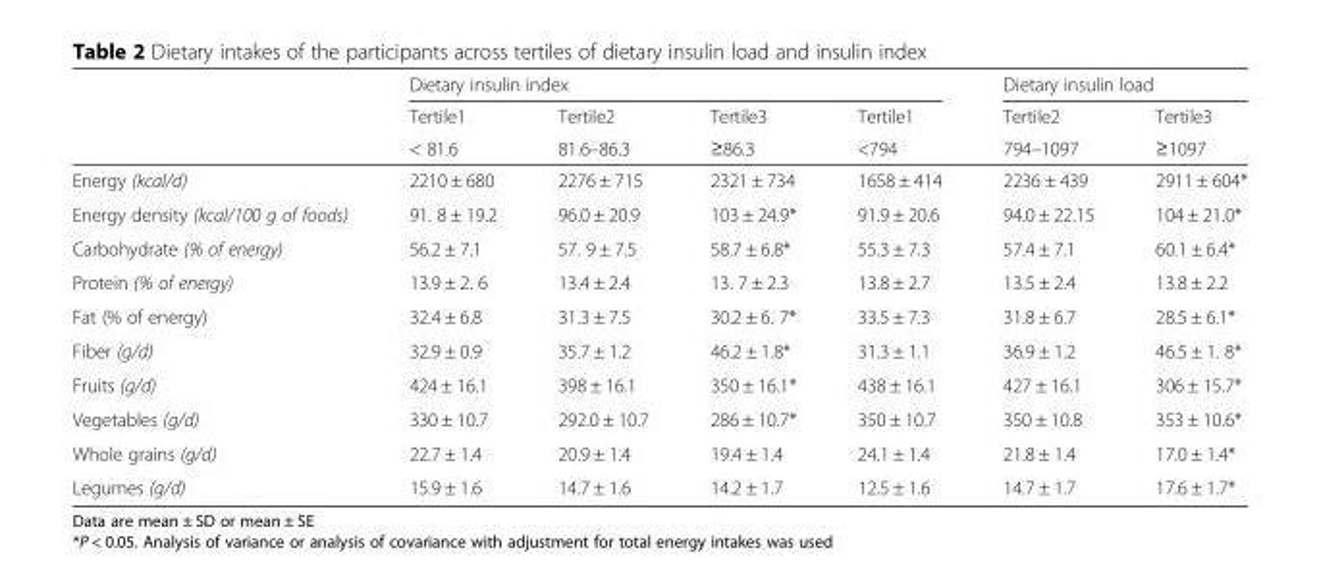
<table><thead><tr><td rowspan="3"></td><td colspan="4">Dietary insulin index</td><td colspan="2">Dietary insulin load</td></tr><tr><td rowspan="2">Tertile1 &lt; 81.6</td><td rowspan="2">Tertile2 81.6–86.3</td><td rowspan="2">Tertile3 ≥86.3</td><td rowspan="2">Tertile1 &lt;794</td><td rowspan="2">Tertile2 794–1097</td><td rowspan="2">Tertile3 ≥1097</td></tr><tr></tr></thead><tbody><tr><td>Energy (kcal/d)</td><td>2210 ± 680</td><td>2276 ± 715</td><td>2321 ± 734</td><td>1658 ± 414</td><td>2236 ± 439</td><td>2911 ± 604*</td></tr><tr><td>Energy density (kcal/100 g of foods)</td><td>91. 8 ± 19.2</td><td>96.0 ± 20.9</td><td>103 ± 24.9*</td><td>91.9 ± 20.6</td><td>94.0 ± 22.15</td><td>104 ± 21.0*</td></tr><tr><td>Carbohydrate (% of energy)</td><td>56.2 ± 7.1</td><td>57. 9 ± 7.5</td><td>58.7 ± 6.8*</td><td>55.3 ± 7.3</td><td>57.4 ± 7.1</td><td>60.1 ± 6.4*</td></tr><tr><td>Protein (% of energy)</td><td>13.9 ± 2. 6</td><td>13.4 ± 2.4</td><td>13. 7 ± 2.3</td><td>13.8 ± 2.7</td><td>13.5 ± 2.4</td><td>13.8 ± 2.2</td></tr><tr><td>Fat (% of energy)</td><td>32.4 ± 6.8</td><td>31.3 ± 7.5</td><td>30.2 ± 6. 7*</td><td>33.5 ± 7.3</td><td>31.8 ± 6.7</td><td>28.5 ± 6.1*</td></tr><tr><td>Fiber (g/d)</td><td>32.9 ± 0.9</td><td>35.7 ± 1.2</td><td>46.2 ± 1.8*</td><td>31.3 ± 1.1</td><td>36.9 ± 1.2</td><td>46.5 ± 1. 8*</td></tr><tr><td>Fruits (g/d)</td><td>424 ± 16.1</td><td>398 ± 16.1</td><td>350 ± 16.1*</td><td>438 ± 16.1</td><td>427 ± 16.1</td><td>306 ± 15.7*</td></tr><tr><td>Vegetables (g/d)</td><td>330 ± 10.7</td><td>292.0 ± 10.7</td><td>286 ± 10.7*</td><td>350 ± 10.7</td><td>350 ± 10.8</td><td>353 ± 10.6*</td></tr><tr><td>Whole grains (g/d)</td><td>22.7 ± 1.4</td><td>20.9 ± 1.4</td><td>19.4 ± 1.4</td><td>24.1 ± 1.4</td><td>21.8 ± 1.4</td><td>17.0 ± 1.4*</td></tr><tr><td>Legumes (g/d)</td><td>15.9 ± 1.6</td><td>14.7 ± 1.6</td><td>14.2 ± 1.7</td><td>12.5 ± 1.6</td><td>14.7 ± 1.7</td><td>17.6 ± 1.7*</td></tr></tbody></table>